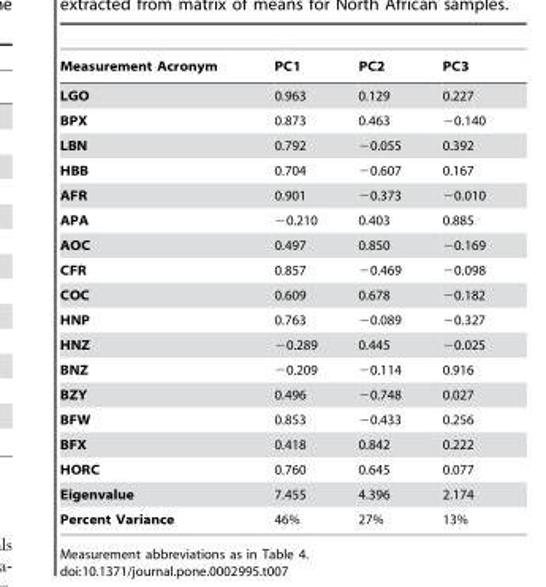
<table><thead><tr><td>Measurement Acronym</td><td>PC1</td><td>PC2</td><td>PC3</td></tr></thead><tbody><tr><td>LGO</td><td>0.963</td><td>0.129</td><td>0.227</td></tr><tr><td>BPX</td><td>0.873</td><td>0.463</td><td>−0.140</td></tr><tr><td>LBN</td><td>0.792</td><td>−0.055</td><td>0.392</td></tr><tr><td>HBB</td><td>0.704</td><td>−0.607</td><td>0.167</td></tr><tr><td>AFR</td><td>0.901</td><td>−0.373</td><td>−0.010</td></tr><tr><td>APA</td><td>−0.210</td><td>0.403</td><td>0.885</td></tr><tr><td>AOC</td><td>0.497</td><td>0.850</td><td>−0.169</td></tr><tr><td>CFR</td><td>0.857</td><td>−0.469</td><td>−0.098</td></tr><tr><td>COC</td><td>0.609</td><td>0.678</td><td>−0.182</td></tr><tr><td>HNP</td><td>0.763</td><td>−0.089</td><td>−0.327</td></tr><tr><td>HNZ</td><td>−0.289</td><td>0.445</td><td>−0.025</td></tr><tr><td>BNZ</td><td>−0.209</td><td>−0.114</td><td>0.916</td></tr><tr><td>BZY</td><td>0.496</td><td>−0.748</td><td>0.027</td></tr><tr><td>BFW</td><td>0.853</td><td>−0.433</td><td>0.256</td></tr><tr><td>BFX</td><td>0.418</td><td>0.842</td><td>0.222</td></tr><tr><td>HORC</td><td>0.760</td><td>0.645</td><td>0.077</td></tr><tr><td>Eigenvalue</td><td>7.455</td><td>4.396</td><td>2.174</td></tr><tr><td>Percent Variance</td><td>46%</td><td>27%</td><td>13%</td></tr></tbody></table>